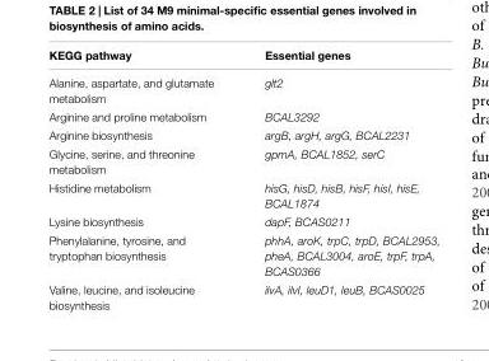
<table><thead><tr><td>KEGG pathway</td><td>Essential genes</td></tr></thead><tbody><tr><td>Alanine, aspartate, and glutamate metabolism</td><td>glt2</td></tr><tr><td>Arginine and proline metabolism</td><td>BCAL3292</td></tr><tr><td>Arginine biosynthesis</td><td>argB, argH, argG, BCAL2231</td></tr><tr><td>Glycine, serine, and threonine metabolism</td><td>gpmA, BCAL1852, serC</td></tr><tr><td>Histidine metabolism</td><td>hisG, hisD, hisB, hisF, hisI, hisE, BCAL1874</td></tr><tr><td>Lysine biosynthesis</td><td>dapF, BCAS0211</td></tr><tr><td>Phenylalanine, tyrosine, and tryptophan biosynthesis</td><td>phhA, aroK, trpC, trpD, BCAL2953, pheA, BCAL3004, aroE, trpF, trpA, BCAS0366</td></tr><tr><td>Valine, leucine, and isoleucine biosynthesis</td><td>ilvA, ilvI, leuD1, leuB, BCAS0025</td></tr></tbody></table>